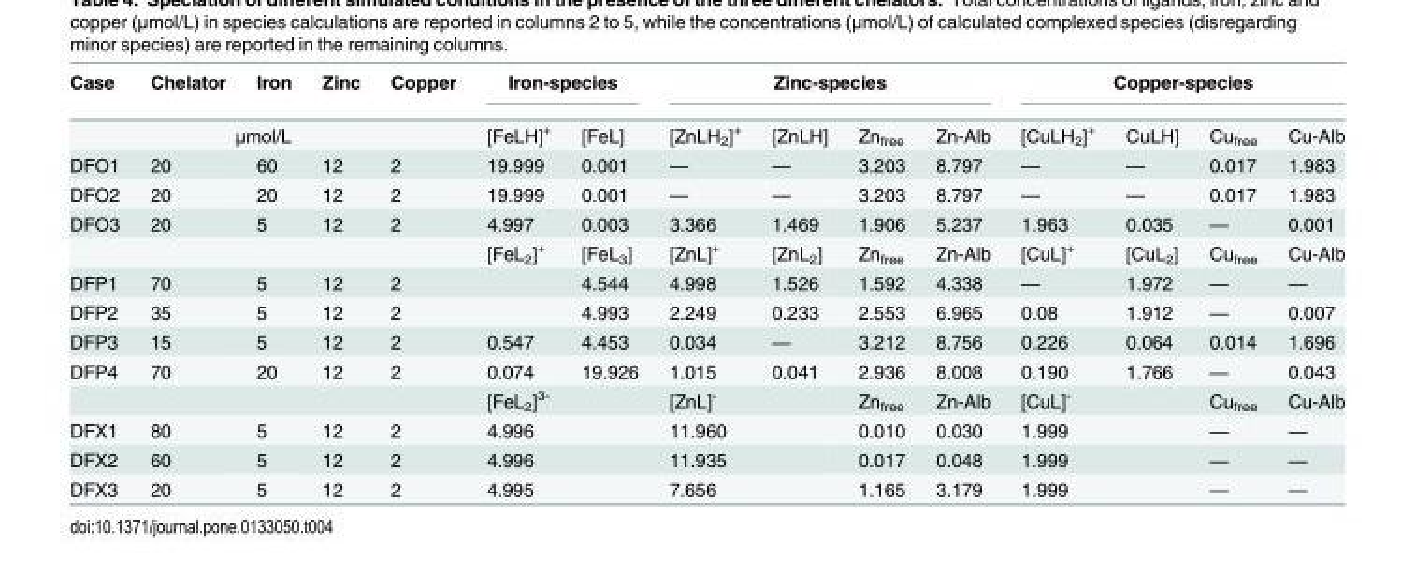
<table><thead><tr><td>Case</td><td>Chelator</td><td>Iron</td><td>Zinc</td><td>Copper</td><td colspan="2">Iron-species</td><td colspan="4">Zinc-species</td><td colspan="4">Copper-species</td></tr><tr><td colspan="5">μmol/L</td><td>[FeLH]<sup>+</sup></td><td>[FeL]</td><td>[ZnLH<sub>2</sub>]<sup>+</sup></td><td>[ZnLH]</td><td>Zn<sub>free</sub></td><td>Zn-Alb</td><td>[CuLH<sub>2</sub>]<sup>+</sup></td><td>CuLH]</td><td>Cu<sub>free</sub></td><td>Cu-Alb</td></tr></thead><tbody><tr><td>DFO1</td><td>20</td><td>60</td><td>12</td><td>2</td><td>19.999</td><td>0.001</td><td>—</td><td>—</td><td>3.203</td><td>8.797</td><td>—</td><td>—</td><td>0.017</td><td>1.983</td></tr><tr><td>DFO2</td><td>20</td><td>20</td><td>12</td><td>2</td><td>19.999</td><td>0.001</td><td>—</td><td>—</td><td>3.203</td><td>8.797</td><td>—</td><td>—</td><td>0.017</td><td>1.983</td></tr><tr><td>DFO3</td><td>20</td><td>5</td><td>12</td><td>2</td><td>4.997</td><td>0.003</td><td>3.366</td><td>1.469</td><td>1.906</td><td>5.237</td><td>1.963</td><td>0.035</td><td>—</td><td>0.001</td></tr><tr><td colspan="5"></td><td>[FeL<sub>2</sub>]<sup>+</sup></td><td>[FeL<sub>3</sub>]</td><td>[ZnL]<sup>+</sup></td><td>[ZnL<sub>2</sub>]</td><td>Zn<sub>free</sub></td><td>Zn-Alb</td><td>[CuL]<sup>+</sup></td><td>[CuL<sub>2</sub>]</td><td>Cu<sub>free</sub></td><td>Cu-Alb</td></tr><tr><td>DFP1</td><td>70</td><td>5</td><td>12</td><td>2</td><td></td><td>4.544</td><td>4.998</td><td>1.526</td><td>1.592</td><td>4.338</td><td>—</td><td>1.972</td><td>—</td><td>—</td></tr><tr><td>DFP2</td><td>35</td><td>5</td><td>12</td><td>2</td><td></td><td>4.993</td><td>2.249</td><td>0.233</td><td>2.553</td><td>6.965</td><td>0.08</td><td>1.912</td><td>—</td><td>0.007</td></tr><tr><td>DFP3</td><td>15</td><td>5</td><td>12</td><td>2</td><td>0.547</td><td>4.453</td><td>0.034</td><td>—</td><td>3.212</td><td>8.756</td><td>0.226</td><td>0.064</td><td>0.014</td><td>1.696</td></tr><tr><td>DFP4</td><td>70</td><td>20</td><td>12</td><td>2</td><td>0.074</td><td>19.926</td><td>1.015</td><td>0.041</td><td>2.936</td><td>8.008</td><td>0.190</td><td>1.766</td><td>—</td><td>0.043</td></tr><tr><td colspan="5"></td><td>[FeL<sub>2</sub>]<sup>3-</sup></td><td></td><td>[ZnL]<sup>-</sup></td><td></td><td>Zn<sub>free</sub></td><td>Zn-Alb</td><td>[CuL]<sup>-</sup></td><td></td><td>Cu<sub>free</sub></td><td>Cu-Alb</td></tr><tr><td>DFX1</td><td>80</td><td>5</td><td>12</td><td>2</td><td>4.996</td><td></td><td>11.960</td><td></td><td>0.010</td><td>0.030</td><td>1.999</td><td></td><td>—</td><td>—</td></tr><tr><td>DFX2</td><td>60</td><td>5</td><td>12</td><td>2</td><td>4.996</td><td></td><td>11.935</td><td></td><td>0.017</td><td>0.048</td><td>1.999</td><td></td><td>—</td><td>—</td></tr><tr><td>DFX3</td><td>20</td><td>5</td><td>12</td><td>2</td><td>4.995</td><td></td><td>7.656</td><td></td><td>1.165</td><td>3.179</td><td>1.999</td><td></td><td>—</td><td>—</td></tr></tbody></table>